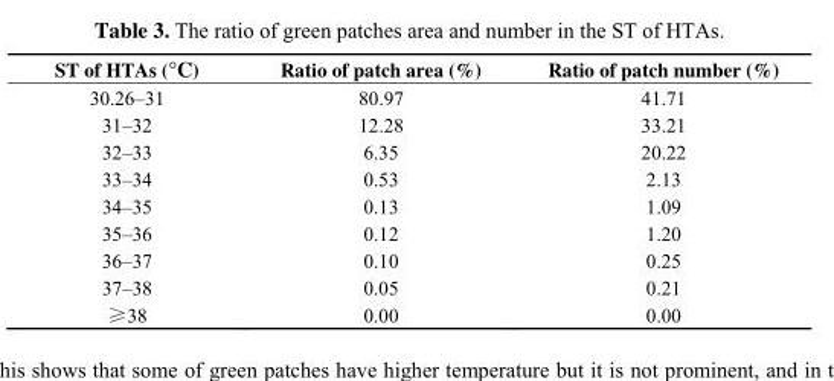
<table><thead><tr><td>ST of HTAs (°C)</td><td>Ratio of patch area (%)</td><td>Ratio of patch number (%)</td></tr></thead><tbody><tr><td>30.26–31</td><td>80.97</td><td>41.71</td></tr><tr><td>31–32</td><td>12.28</td><td>33.21</td></tr><tr><td>32–33</td><td>6.35</td><td>20.22</td></tr><tr><td>33–34</td><td>0.53</td><td>2.13</td></tr><tr><td>34–35</td><td>0.13</td><td>1.09</td></tr><tr><td>35–36</td><td>0.12</td><td>1.20</td></tr><tr><td>36–37</td><td>0.10</td><td>0.25</td></tr><tr><td>37–38</td><td>0.05</td><td>0.21</td></tr><tr><td>≥38</td><td>0.00</td><td>0.00</td></tr></tbody></table>